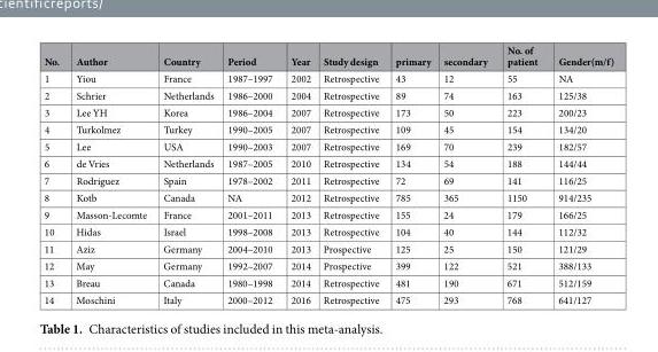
<table><thead><tr><td>No.</td><td>Author</td><td>Country</td><td>Period</td><td>Year</td><td>Study design</td><td>primary</td><td>secondary</td><td>No. of patient</td><td>Gender(m/f)</td></tr></thead><tbody><tr><td>1</td><td>Yiou</td><td>France</td><td>1987–1997</td><td>2002</td><td>Retrospective</td><td>43</td><td>12</td><td>55</td><td>NA</td></tr><tr><td>2</td><td>Schrier</td><td>Netherlands</td><td>1986–2000</td><td>2004</td><td>Retrospective</td><td>89</td><td>74</td><td>163</td><td>125/38</td></tr><tr><td>3</td><td>Lee YH</td><td>Korea</td><td>1986–2004</td><td>2007</td><td>Retrospective</td><td>173</td><td>50</td><td>223</td><td>200/23</td></tr><tr><td>4</td><td>Turkolmez</td><td>Turkey</td><td>1990–2005</td><td>2007</td><td>Retrospective</td><td>109</td><td>45</td><td>154</td><td>134/20</td></tr><tr><td>5</td><td>Lee</td><td>USA</td><td>1990–2003</td><td>2007</td><td>Retrospective</td><td>169</td><td>70</td><td>239</td><td>182/57</td></tr><tr><td>6</td><td>de Vries</td><td>Netherlands</td><td>1987–2005</td><td>2010</td><td>Retrospective</td><td>134</td><td>54</td><td>188</td><td>144/44</td></tr><tr><td>7</td><td>Rodriguez</td><td>Spain</td><td>1978–2002</td><td>2011</td><td>Retrospective</td><td>72</td><td>69</td><td>141</td><td>116/25</td></tr><tr><td>8</td><td>Kotb</td><td>Canada</td><td>NA</td><td>2012</td><td>Retrospective</td><td>785</td><td>365</td><td>1150</td><td>914/235</td></tr><tr><td>9</td><td>Masson-Lecomte</td><td>France</td><td>2001–2011</td><td>2013</td><td>Retrospective</td><td>155</td><td>24</td><td>179</td><td>166/25</td></tr><tr><td>10</td><td>Hidas</td><td>Israel</td><td>1998–2008</td><td>2013</td><td>Retrospective</td><td>104</td><td>40</td><td>144</td><td>112/32</td></tr><tr><td>11</td><td>Aziz</td><td>Germany</td><td>2004–2010</td><td>2013</td><td>Prospective</td><td>125</td><td>25</td><td>150</td><td>121/29</td></tr><tr><td>12</td><td>May</td><td>Germany</td><td>1992–2007</td><td>2014</td><td>Prospective</td><td>399</td><td>122</td><td>521</td><td>388/133</td></tr><tr><td>13</td><td>Breau</td><td>Canada</td><td>1980–1998</td><td>2014</td><td>Retrospective</td><td>481</td><td>190</td><td>671</td><td>512/159</td></tr><tr><td>14</td><td>Moschini</td><td>Italy</td><td>2000–2012</td><td>2016</td><td>Retrospective</td><td>475</td><td>293</td><td>768</td><td>641/127</td></tr></tbody></table>